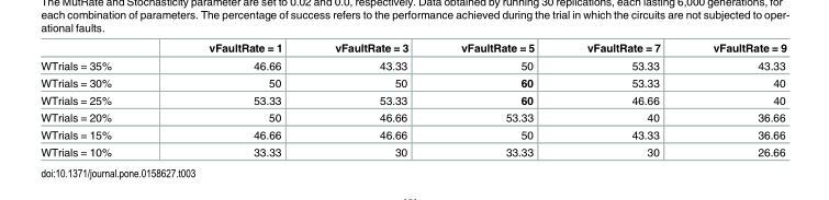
<table><thead><tr><td></td><td>vFaultRate = 1</td><td>vFaultRate = 3</td><td>vFaultRate = 5</td><td>vFaultRate = 7</td><td>vFaultRate = 9</td></tr></thead><tbody><tr><td>WTrials = 35%</td><td>46.66</td><td>43.33</td><td>50</td><td>53.33</td><td>43.33</td></tr><tr><td>WTrials = 30%</td><td>50</td><td>50</td><td>60</td><td>53.33</td><td>40</td></tr><tr><td>WTrials = 25%</td><td>53.33</td><td>53.33</td><td>60</td><td>46.66</td><td>40</td></tr><tr><td>WTrials = 20%</td><td>50</td><td>46.66</td><td>53.33</td><td>40</td><td>36.66</td></tr><tr><td>WTrials = 15%</td><td>46.66</td><td>46.66</td><td>50</td><td>43.33</td><td>36.66</td></tr><tr><td>WTrials = 10%</td><td>33.33</td><td>30</td><td>33.33</td><td>30</td><td>26.66</td></tr></tbody></table>